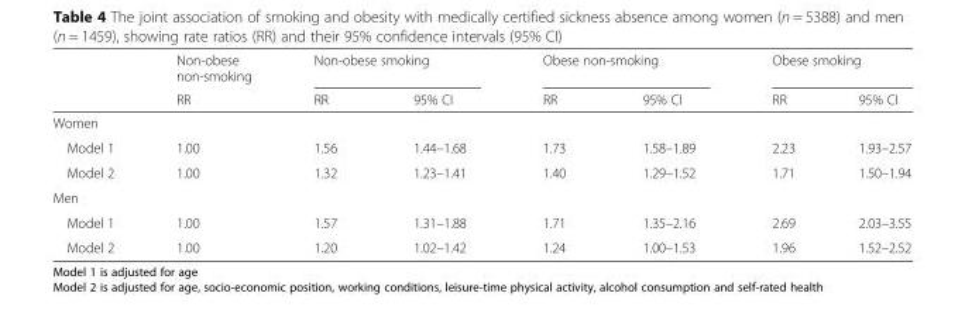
<table><thead><tr><td rowspan="2"></td><td rowspan="2">Non-obese non-smoking RR</td><td colspan="2">Non-obese smoking</td><td colspan="2">Obese non-smoking</td><td colspan="2">Obese smoking</td></tr><tr><td>RR</td><td>95% CI</td><td>RR</td><td>95% CI</td><td>RR</td><td>95% CI</td></tr></thead><tbody><tr><td colspan="8">Women</td></tr><tr><td>Model 1</td><td>1.00</td><td>1.56</td><td>1.44–1.68</td><td>1.73</td><td>1.58–1.89</td><td>2.23</td><td>1.93–2.57</td></tr><tr><td>Model 2</td><td>1.00</td><td>1.32</td><td>1.23–1.41</td><td>1.40</td><td>1.29–1.52</td><td>1.71</td><td>1.50–1.94</td></tr><tr><td colspan="8">Men</td></tr><tr><td>Model 1</td><td>1.00</td><td>1.57</td><td>1.31–1.88</td><td>1.71</td><td>1.35–2.16</td><td>2.69</td><td>2.03–3.55</td></tr><tr><td>Model 2</td><td>1.00</td><td>1.20</td><td>1.02–1.42</td><td>1.24</td><td>1.00–1.53</td><td>1.96</td><td>1.52–2.52</td></tr></tbody></table>